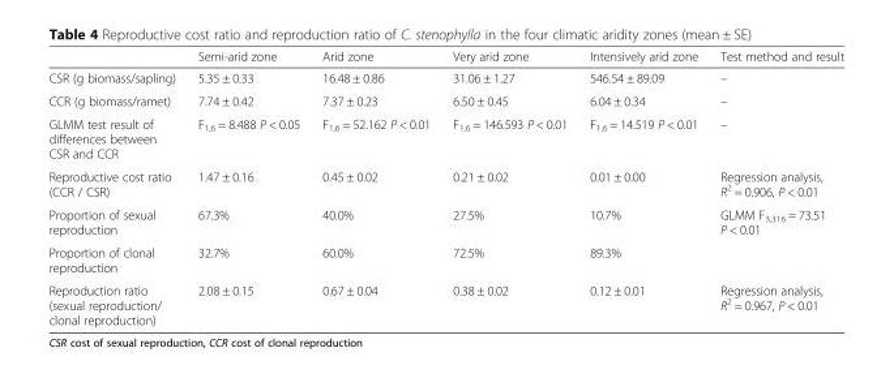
<table><thead><tr><td></td><td>Semi-arid zone</td><td>Arid zone</td><td>Very arid zone</td><td>Intensively arid zone</td><td>Test method and result</td></tr></thead><tbody><tr><td>CSR (g biomass/sapling)</td><td>5.35 ± 0.33</td><td>16.48 ± 0.86</td><td>31.06 ± 1.27</td><td>546.54 ± 89.09</td><td>–</td></tr><tr><td>CCR (g biomass/ramet)</td><td>7.74 ± 0.42</td><td>7.37 ± 0.23</td><td>6.50 ± 0.45</td><td>6.04 ± 0.34</td><td>–</td></tr><tr><td>GLMM test result of differences between CSR and CCR</td><td>F<sub>1,6</sub> = 8.488 P &lt; 0.05</td><td>F<sub>1,6</sub> = 52.162 P &lt; 0.01</td><td>F<sub>1,6</sub> = 146.593 P &lt; 0.01</td><td>F<sub>1,6</sub> = 14.519 P &lt; 0.01</td><td>–</td></tr><tr><td>Reproductive cost ratio (CCR / CSR)</td><td>1.47 ± 0.16</td><td>0.45 ± 0.02</td><td>0.21 ± 0.02</td><td>0.01 ± 0.00</td><td>Regression analysis, R<sup>2</sup> = 0.906, P &lt; 0.01</td></tr><tr><td>Proportion of sexual reproduction</td><td>67.3%</td><td>40.0%</td><td>27.5%</td><td>10.7%</td><td rowspan="2">GLMM F<sub>3,316</sub> = 73.51 P &lt; 0.01</td></tr><tr><td>Proportion of clonal reproduction</td><td>32.7%</td><td>60.0%</td><td>72.5%</td><td>89.3%</td></tr><tr><td>Reproduction ratio (sexual reproduction/ clonal reproduction)</td><td>2.08 ± 0.15</td><td>0.67 ± 0.04</td><td>0.38 ± 0.02</td><td>0.12 ± 0.01</td><td>Regression analysis, R<sup>2</sup> = 0.967, P &lt; 0.01</td></tr></tbody></table>